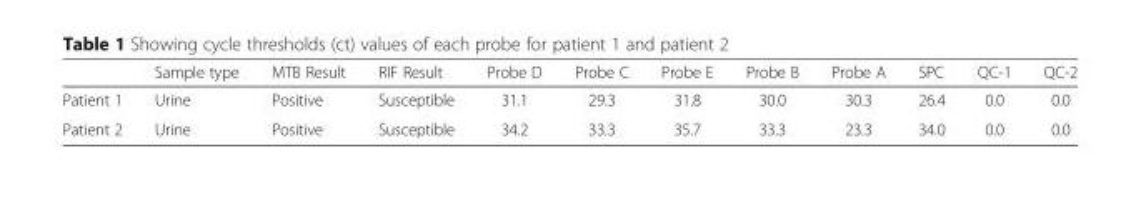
<table><thead><tr><td></td><td>Sample type</td><td>MTB Result</td><td>RIF Result</td><td>Probe D</td><td>Probe C</td><td>Probe E</td><td>Probe B</td><td>Probe A</td><td>SPC</td><td>QC-1</td><td>QC-2</td></tr></thead><tbody><tr><td>Patient 1</td><td>Urine</td><td>Positive</td><td>Susceptible</td><td>31.1</td><td>29.3</td><td>31.8</td><td>30.0</td><td>30.3</td><td>26.4</td><td>0.0</td><td>0.0</td></tr><tr><td>Patient 2</td><td>Urine</td><td>Positive</td><td>Susceptible</td><td>34.2</td><td>33.3</td><td>35.7</td><td>33.3</td><td>23.3</td><td>34.0</td><td>0.0</td><td>0.0</td></tr></tbody></table>